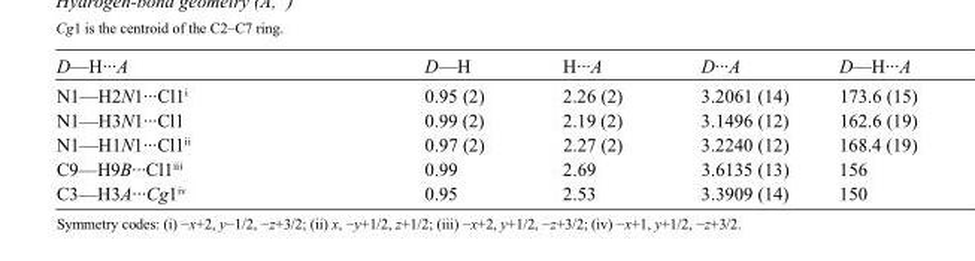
<table><tbody><tr><td>D—H···A</td><td>D—H</td><td>H···A</td><td>D···A</td><td>D—H···A</td></tr><tr><td>N1—H2N1···Cl1<sup>i</sup></td><td>0.95 (2)</td><td>2.26 (2)</td><td>3.2061 (14)</td><td>173.6 (15)</td></tr><tr><td>N1—H3N1···Cl1</td><td>0.99 (2)</td><td>2.19 (2)</td><td>3.1496 (12)</td><td>162.6 (19)</td></tr><tr><td>N1—H1N1···Cl1<sup>ii</sup></td><td>0.97 (2)</td><td>2.27 (2)</td><td>3.2240 (12)</td><td>168.4 (19)</td></tr><tr><td>C9—H9B···Cl1<sup>iii</sup></td><td>0.99</td><td>2.69</td><td>3.6135 (13)</td><td>156</td></tr><tr><td>C3—H3A···Cg1<sup>iv</sup></td><td>0.95</td><td>2.53</td><td>3.3909 (14)</td><td>150</td></tr></tbody></table>